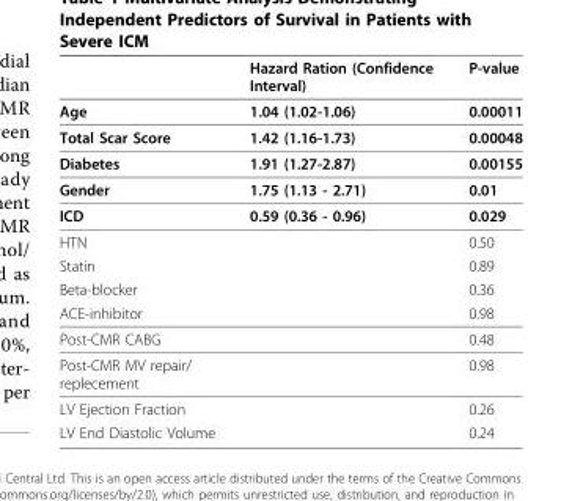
<table><thead><tr><td></td><td>Hazard Ration (Confidence Interval)</td><td>P-value</td></tr></thead><tbody><tr><td>Age</td><td>1.04 (1.02-1.06)</td><td>0.00011</td></tr><tr><td>Total Scar Score</td><td>1.42 (1.16-1.73)</td><td>0.00048</td></tr><tr><td>Diabetes</td><td>1.91 (1.27-2.87)</td><td>0.00155</td></tr><tr><td>Gender</td><td>1.75 (1.13 - 2.71)</td><td>0.01</td></tr><tr><td>ICD</td><td>0.59 (0.36 - 0.96)</td><td>0.029</td></tr><tr><td>HTN</td><td></td><td>0.50</td></tr><tr><td>Statin</td><td></td><td>0.89</td></tr><tr><td>Beta-blocker</td><td></td><td>0.36</td></tr><tr><td>ACE-inhibitor</td><td></td><td>0.98</td></tr><tr><td>Post-CMR CABG</td><td></td><td>0.48</td></tr><tr><td>Post-CMR MV repair/ replecement</td><td></td><td>0.98</td></tr><tr><td>LV Ejection Fraction</td><td></td><td>0.26</td></tr><tr><td>LV End Diastolic Volume</td><td></td><td>0.24</td></tr></tbody></table>